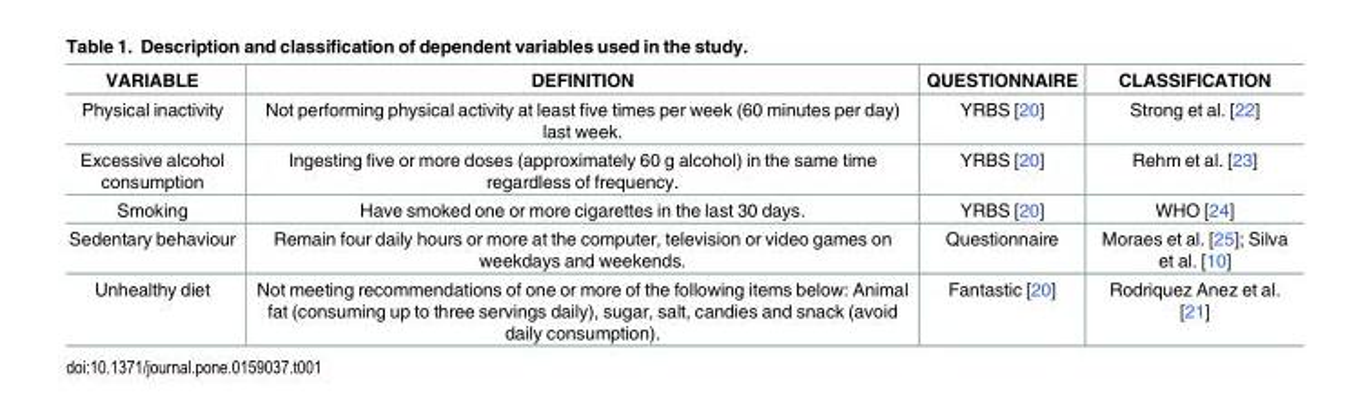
<table><thead><tr><td>VARIABLE</td><td>DEFINITION</td><td>QUESTIONNAIRE</td><td>CLASSIFICATION</td></tr></thead><tbody><tr><td>Physical inactivity</td><td>Not performing physical activity at least five times per week (60 minutes per day) last week.</td><td>YRBS [20]</td><td>Strong et al. [22]</td></tr><tr><td>Excessive alcohol consumption</td><td>Ingesting five or more doses (approximately 60 g alcohol) in the same time regardless of frequency.</td><td>YRBS [20]</td><td>Rehm et al. [23]</td></tr><tr><td>Smoking</td><td>Have smoked one or more cigarettes in the last 30 days.</td><td>YRBS [20]</td><td>WHO [24]</td></tr><tr><td>Sedentary behaviour</td><td>Remain four daily hours or more at the computer, television or video games on weekdays and weekends.</td><td>Questionnaire</td><td>Moraes et al. [25]; Silva et al. [10]</td></tr><tr><td>Unhealthy diet</td><td>Not meeting recommendations of one or more of the following items below: Animal fat (consuming up to three servings daily), sugar, salt, candies and snack (avoid daily consumption).</td><td>Fantastic [20]</td><td>Rodriquez Anez et al. [21]</td></tr></tbody></table>